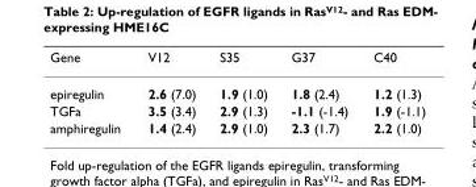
<table><thead><tr><td>Gene</td><td>V12</td><td>S35</td><td>G37</td><td>C40</td></tr></thead><tbody><tr><td>epiregulin</td><td>2.6 (7.0)</td><td>1.9 (1.0)</td><td>1.8 (2.4)</td><td>1.2 (1.3)</td></tr><tr><td>TGFa</td><td>3.5 (3.4)</td><td>2.9 (1.3)</td><td>-1.1 (-1.4)</td><td>1.9 (-1.1)</td></tr><tr><td>amphiregulin</td><td>1.4 (2.4)</td><td>2.9 (1.0)</td><td>2.3 (1.7)</td><td>2.2 (1.0)</td></tr></tbody></table>